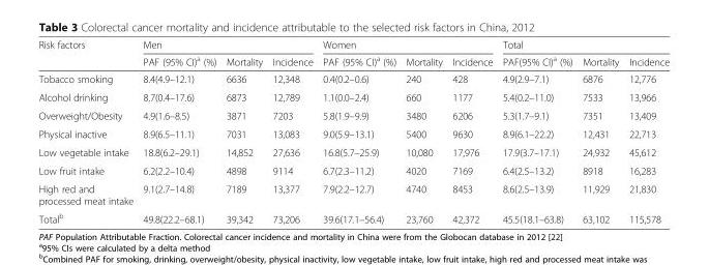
<table><thead><tr><td rowspan="2">Risk factors</td><td colspan="3">Men</td><td colspan="3">Women</td><td colspan="3">Total</td></tr><tr><td>PAF (95% CI)<sup>a</sup> (%)</td><td>Mortality</td><td>Incidence</td><td>PAF (95% CI)<sup>a</sup> (%)</td><td>Mortality</td><td>Incidence</td><td>PAF(95% CI)<sup>a</sup> (%)</td><td>Mortality</td><td>Incidence</td></tr></thead><tbody><tr><td>Tobacco smoking</td><td>8.4(4.9–12.1)</td><td>6636</td><td>12,348</td><td>0.4(0.2–0.6)</td><td>240</td><td>428</td><td>4.9(2.9–7.1)</td><td>6876</td><td>12,776</td></tr><tr><td>Alcohol drinking</td><td>8.7(0.4–17.6)</td><td>6873</td><td>12,789</td><td>1.1(0.0–2.4)</td><td>660</td><td>1177</td><td>5.4(0.2–11.0)</td><td>7533</td><td>13,966</td></tr><tr><td>Overweight/Obesity</td><td>4.9(1.6–8.5)</td><td>3871</td><td>7203</td><td>5.8(1.9–9.9)</td><td>3480</td><td>6206</td><td>5.3(1.7–9.1)</td><td>7351</td><td>13,409</td></tr><tr><td>Physical inactive</td><td>8.9(6.5–11.1)</td><td>7031</td><td>13,083</td><td>9.0(5.9–13.1)</td><td>5400</td><td>9630</td><td>8.9(6.1–22.2)</td><td>12,431</td><td>22,713</td></tr><tr><td>Low vegetable intake</td><td>18.8(6.2–29.1)</td><td>14,852</td><td>27,636</td><td>16.8(5.7–25.9)</td><td>10,080</td><td>17,976</td><td>17.9(3.7–17.1)</td><td>24,932</td><td>45,612</td></tr><tr><td>Low fruit intake</td><td>6.2(2.2–10.4)</td><td>4898</td><td>9114</td><td>6.7(2.3–11.2)</td><td>4020</td><td>7169</td><td>6.4(2.5–13.2)</td><td>8918</td><td>16,283</td></tr><tr><td>High red and processed meat intake</td><td>9.1(2.7–14.8)</td><td>7189</td><td>13,377</td><td>7.9(2.2–12.7)</td><td>4740</td><td>8453</td><td>8.6(2.5–13.9)</td><td>11,929</td><td>21,830</td></tr><tr><td>Total<sup>b</sup></td><td>49.8(22.2–68.1)</td><td>39,342</td><td>73,206</td><td>39.6(17.1–56.4)</td><td>23,760</td><td>42,372</td><td>45.5(18.1–63.8)</td><td>63,102</td><td>115,578</td></tr></tbody></table>